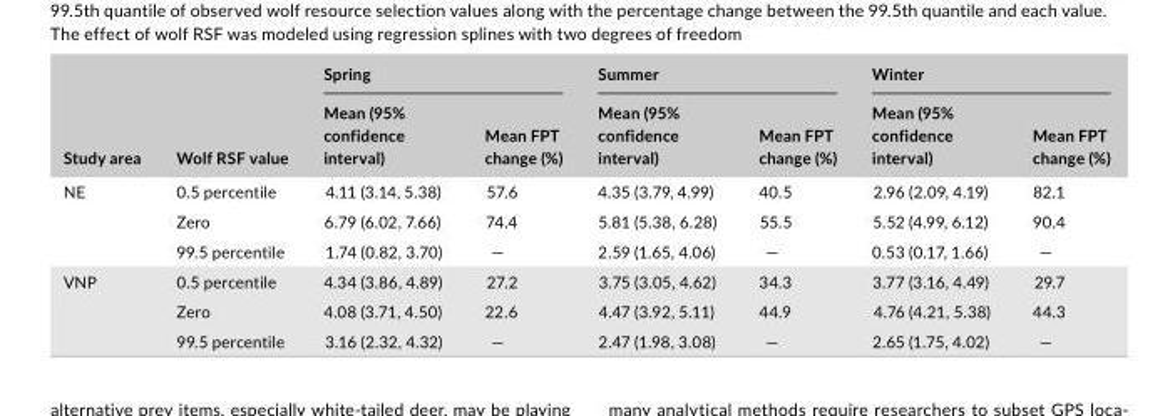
<table><thead><tr><td rowspan="2">Study area</td><td rowspan="2">Wolf RSF value</td><td colspan="2">Spring</td><td colspan="2">Summer</td><td colspan="2">Winter</td></tr><tr><td>Mean (95% confidence interval)</td><td>Mean FPT change (%)</td><td>Mean (95% confidence interval)</td><td>Mean FPT change (%)</td><td>Mean (95% confidence interval)</td><td>Mean FPT change (%)</td></tr></thead><tbody><tr><td rowspan="3">NE</td><td>0.5 percentile</td><td>4.11 (3.14, 5.38)</td><td>57.6</td><td>4.35 (3.79, 4.99)</td><td>40.5</td><td>2.96 (2.09, 4.19)</td><td>82.1</td></tr><tr><td>Zero</td><td>6.79 (6.02, 7.66)</td><td>74.4</td><td>5.81 (5.38, 6.28)</td><td>55.5</td><td>5.52 (4.99, 6.12)</td><td>90.4</td></tr><tr><td>99.5 percentile</td><td>1.74 (0.82, 3.70)</td><td>—</td><td>2.59 (1.65, 4.06)</td><td>—</td><td>0.53 (0.17, 1.66)</td><td>—</td></tr><tr><td rowspan="3">VNP</td><td>0.5 percentile</td><td>4.34 (3.86, 4.89)</td><td>27.2</td><td>3.75 (3.05, 4.62)</td><td>34.3</td><td>3.77 (3.16, 4.49)</td><td>29.7</td></tr><tr><td>Zero</td><td>4.08 (3.71, 4.50)</td><td>22.6</td><td>4.47 (3.92, 5.11)</td><td>44.9</td><td>4.76 (4.21, 5.38)</td><td>44.3</td></tr><tr><td>99.5 percentile</td><td>3.16 (2.32, 4.32)</td><td>—</td><td>2.47 (1.98, 3.08)</td><td>—</td><td>2.65 (1.75, 4.02)</td><td>—</td></tr></tbody></table>